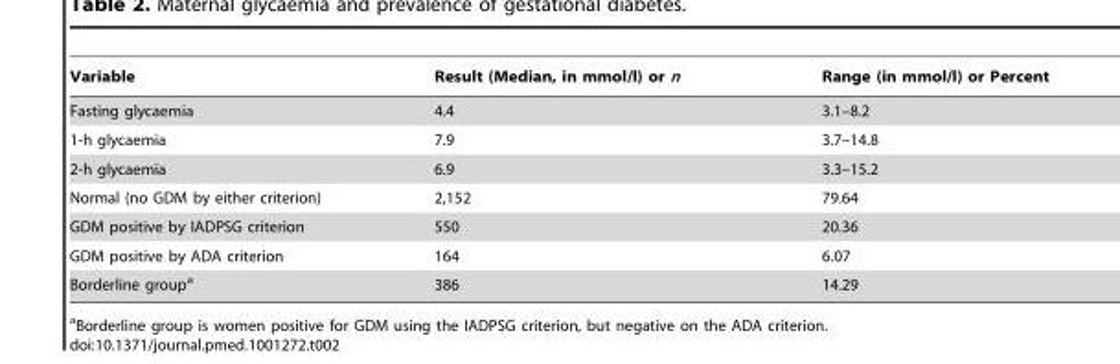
<table><thead><tr><td>Variable</td><td>Result (Median, in mmol/l) or n</td><td>Range (in mmol/l) or Percent</td></tr></thead><tbody><tr><td>Fasting glycaemia</td><td>4.4</td><td>3.1–8.2</td></tr><tr><td>1-h glycaemia</td><td>7.9</td><td>3.7–14.8</td></tr><tr><td>2-h glycaemia</td><td>6.9</td><td>3.3–15.2</td></tr><tr><td>Normal (no GDM by either criterion)</td><td>2,152</td><td>79.64</td></tr><tr><td>GDM positive by IADPSG criterion</td><td>550</td><td>20.36</td></tr><tr><td>GDM positive by ADA criterion</td><td>164</td><td>6.07</td></tr><tr><td>Borderline group<sup>a</sup></td><td>386</td><td>14.29</td></tr></tbody></table>